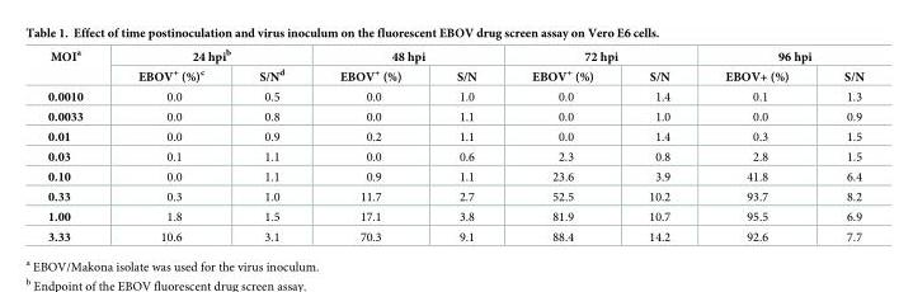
<table><thead><tr><td rowspan="2">MOI<sup>a</sup></td><td colspan="2">24 hpi<sup>b</sup></td><td colspan="2">48 hpi</td><td colspan="2">72 hpi</td><td colspan="2">96 hpi</td></tr><tr><td>EBOV<sup>+</sup> (%)<sup>c</sup></td><td>S/N<sup>d</sup></td><td>EBOV<sup>+</sup> (%)</td><td>S/N</td><td>EBOV<sup>+</sup> (%)</td><td>S/N</td><td>EBOV+ (%)</td><td>S/N</td></tr></thead><tbody><tr><td>0.0010</td><td>0.0</td><td>0.5</td><td>0.0</td><td>1.0</td><td>0.0</td><td>1.4</td><td>0.1</td><td>1.3</td></tr><tr><td>0.0033</td><td>0.0</td><td>0.8</td><td>0.0</td><td>1.1</td><td>0.0</td><td>1.0</td><td>0.0</td><td>0.9</td></tr><tr><td>0.01</td><td>0.0</td><td>0.9</td><td>0.2</td><td>1.1</td><td>0.0</td><td>1.4</td><td>0.3</td><td>1.5</td></tr><tr><td>0.03</td><td>0.1</td><td>1.1</td><td>0.0</td><td>0.6</td><td>2.3</td><td>0.8</td><td>2.8</td><td>1.5</td></tr><tr><td>0.10</td><td>0.0</td><td>1.1</td><td>0.9</td><td>1.1</td><td>23.6</td><td>3.9</td><td>41.8</td><td>6.4</td></tr><tr><td>0.33</td><td>0.3</td><td>1.0</td><td>11.7</td><td>2.7</td><td>52.5</td><td>10.2</td><td>93.7</td><td>8.2</td></tr><tr><td>1.00</td><td>1.8</td><td>1.5</td><td>17.1</td><td>3.8</td><td>81.9</td><td>10.7</td><td>95.5</td><td>6.9</td></tr><tr><td>3.33</td><td>10.6</td><td>3.1</td><td>70.3</td><td>9.1</td><td>88.4</td><td>14.2</td><td>92.6</td><td>7.7</td></tr></tbody></table>